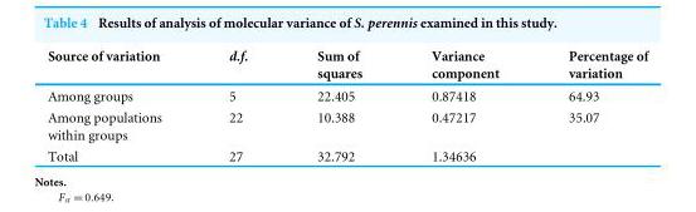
<table><thead><tr><td>Source of variation</td><td>d.f.</td><td>Sum of squares</td><td>Variance component</td><td>Percentage of variation</td></tr></thead><tbody><tr><td>Among groups</td><td>5</td><td>22.405</td><td>0.87418</td><td>64.93</td></tr><tr><td>Among populations within groups</td><td>22</td><td>10.388</td><td>0.47217</td><td>35.07</td></tr><tr><td>Total</td><td>27</td><td>32.792</td><td>1.34636</td><td></td></tr></tbody></table>